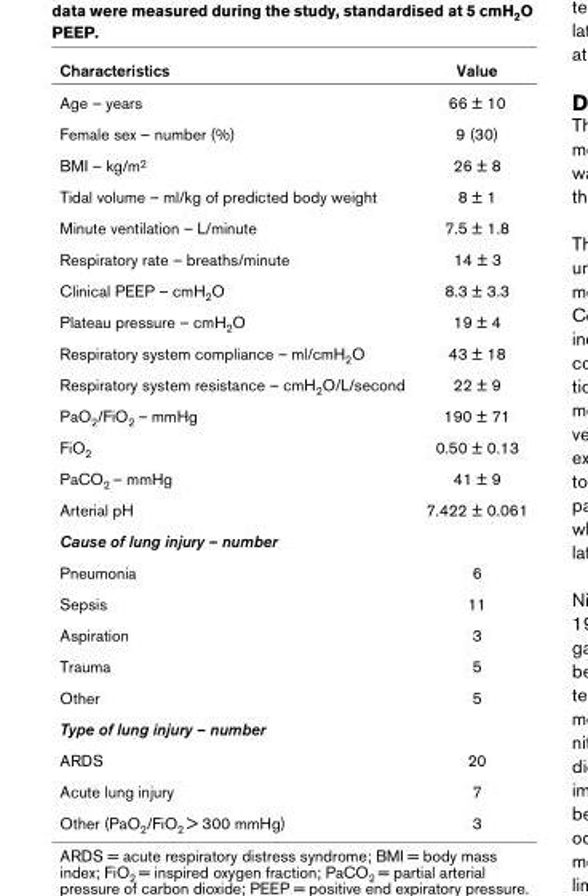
<table><thead><tr><td>Characteristics</td><td>Value</td></tr></thead><tbody><tr><td>Age – years</td><td>66 ± 10</td></tr><tr><td>Female sex – number (%)</td><td>9 (30)</td></tr><tr><td>BMI – kg/m<sup>2</sup></td><td>26 ± 8</td></tr><tr><td>Tidal volume – ml/kg of predicted body weight</td><td>8 ± 1</td></tr><tr><td>Minute ventilation – L/minute</td><td>7.5 ± 1.8</td></tr><tr><td>Respiratory rate – breaths/minute</td><td>14 ± 3</td></tr><tr><td>Clinical PEEP – cmH<sub>2</sub>O</td><td>8.3 ± 3.3</td></tr><tr><td>Plateau pressure – cmH<sub>2</sub>O</td><td>19 ± 4</td></tr><tr><td>Respiratory system compliance – ml/cmH<sub>2</sub>O</td><td>43 ± 18</td></tr><tr><td>Respiratory system resistance – cmH<sub>2</sub>O/L/second</td><td>22 ± 9</td></tr><tr><td>PaO<sub>2</sub>/FiO<sub>2</sub> – mmHg</td><td>190 ± 71</td></tr><tr><td>FiO<sub>2</sub></td><td>0.50 ± 0.13</td></tr><tr><td>PaCO<sub>2</sub> – mmHg</td><td>41 ± 9</td></tr><tr><td>Arterial pH</td><td>7.422 ± 0.061</td></tr><tr><td colspan="2">Cause of lung injury – number</td></tr><tr><td>Pneumonia</td><td>6</td></tr><tr><td>Sepsis</td><td>11</td></tr><tr><td>Aspiration</td><td>3</td></tr><tr><td>Trauma</td><td>5</td></tr><tr><td>Other</td><td>5</td></tr><tr><td colspan="2">Type of lung injury – number</td></tr><tr><td>ARDS</td><td>20</td></tr><tr><td>Acute lung injury</td><td>7</td></tr><tr><td>Other (PaO<sub>2</sub>/FiO<sub>2</sub> &gt; 300 mmHg)</td><td>3</td></tr></tbody></table>